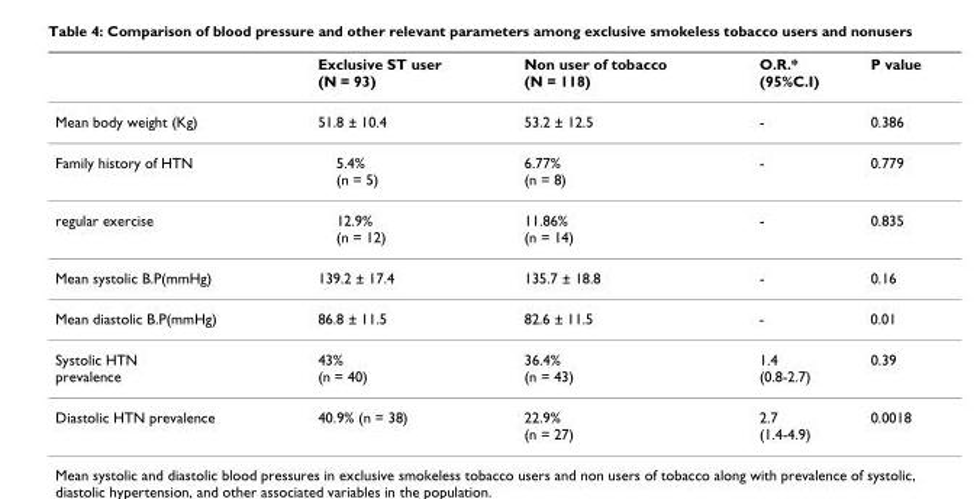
<table><thead><tr><td></td><td>Exclusive ST user (N = 93)</td><td>Non user of tobacco (N = 118)</td><td>O.R.* (95%C.I)</td><td>P value</td></tr></thead><tbody><tr><td>Mean body weight (Kg)</td><td>51.8 ± 10.4</td><td>53.2 ± 12.5</td><td>-</td><td>0.386</td></tr><tr><td>Family history of HTN</td><td>5.4% (n = 5)</td><td>6.77% (n = 8)</td><td>-</td><td>0.779</td></tr><tr><td>regular exercise</td><td>12.9% (n = 12)</td><td>11.86% (n = 14)</td><td>-</td><td>0.835</td></tr><tr><td>Mean systolic B.P(mmHg)</td><td>139.2 ± 17.4</td><td>135.7 ± 18.8</td><td>-</td><td>0.16</td></tr><tr><td>Mean diastolic B.P(mmHg)</td><td>86.8 ± 11.5</td><td>82.6 ± 11.5</td><td>-</td><td>0.01</td></tr><tr><td>Systolic HTN prevalence</td><td>43% (n = 40)</td><td>36.4% (n = 43)</td><td>1.4 (0.8-2.7)</td><td>0.39</td></tr><tr><td>Diastolic HTN prevalence</td><td>40.9% (n = 38)</td><td>22.9% (n = 27)</td><td>2.7 (1.4-4.9)</td><td>0.0018</td></tr></tbody></table>